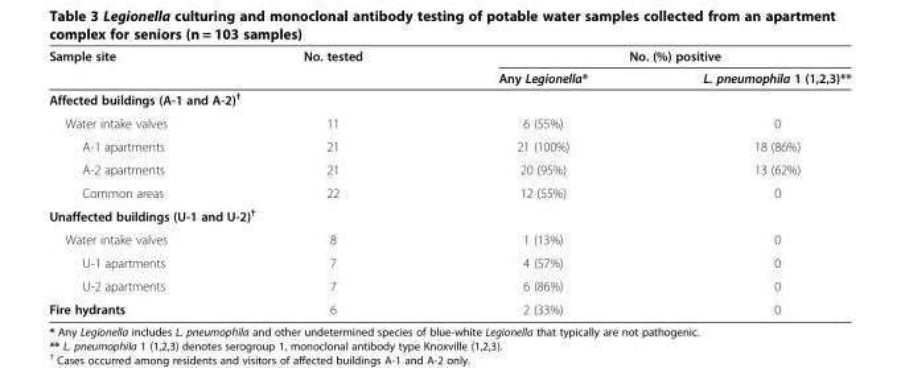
<table><thead><tr><td rowspan="2">Sample site</td><td rowspan="2">No. tested</td><td colspan="2">No. (%) positive</td></tr><tr><td>Any Legionella*</td><td>L. pneumophila 1 (1,2,3)**</td></tr></thead><tbody><tr><td colspan="4">Affected buildings (A-1 and A-2)<sup>†</sup></td></tr><tr><td>Water intake valves</td><td>11</td><td>6 (55%)</td><td>0</td></tr><tr><td>A-1 apartments</td><td>21</td><td>21 (100%)</td><td>18 (86%)</td></tr><tr><td>A-2 apartments</td><td>21</td><td>20 (95%)</td><td>13 (62%)</td></tr><tr><td>Common areas</td><td>22</td><td>12 (55%)</td><td>0</td></tr><tr><td colspan="4">Unaffected buildings (U-1 and U-2)<sup>†</sup></td></tr><tr><td>Water intake valves</td><td>8</td><td>1 (13%)</td><td>0</td></tr><tr><td>U-1 apartments</td><td>7</td><td>4 (57%)</td><td>0</td></tr><tr><td>U-2 apartments</td><td>7</td><td>6 (86%)</td><td>0</td></tr><tr><td>Fire hydrants</td><td>6</td><td>2 (33%)</td><td>0</td></tr></tbody></table>